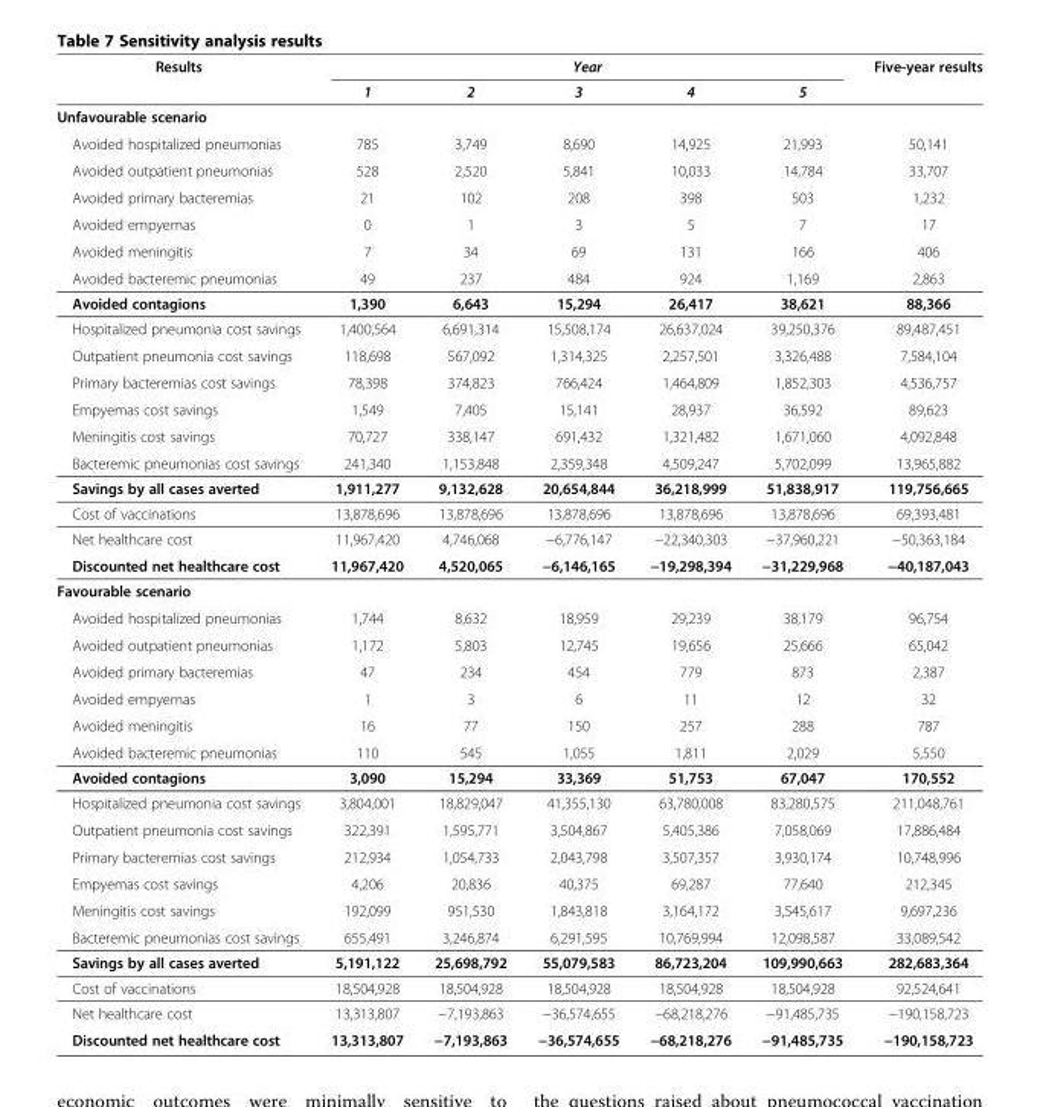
<table><thead><tr><td rowspan="2">Results</td><td colspan="5">Year</td><td rowspan="2">Five-year results</td></tr><tr><td>1</td><td>2</td><td>3</td><td>4</td><td>5</td></tr></thead><tbody><tr><td colspan="7">Unfavourable scenario</td></tr><tr><td>Avoided hospitalized pneumonias</td><td>785</td><td>3,749</td><td>8,690</td><td>14,925</td><td>21,993</td><td>50,141</td></tr><tr><td>Avoided outpatient pneumonias</td><td>528</td><td>2,520</td><td>5,841</td><td>10,033</td><td>14,784</td><td>33,707</td></tr><tr><td>Avoided primary bacteremias</td><td>21</td><td>102</td><td>208</td><td>398</td><td>503</td><td>1,232</td></tr><tr><td>Avoided empyemas</td><td>0</td><td>1</td><td>3</td><td>5</td><td>7</td><td>17</td></tr><tr><td>Avoided meningitis</td><td>7</td><td>34</td><td>69</td><td>131</td><td>166</td><td>406</td></tr><tr><td>Avoided bacteremic pneumonias</td><td>49</td><td>237</td><td>484</td><td>924</td><td>1,169</td><td>2,863</td></tr><tr><td>Avoided contagions</td><td>1,390</td><td>6,643</td><td>15,294</td><td>26,417</td><td>38,621</td><td>88,366</td></tr><tr><td>Hospitalized pneumonia cost savings</td><td>1,400,564</td><td>6,691,314</td><td>15,508,174</td><td>26,637,024</td><td>39,250,376</td><td>89,487,451</td></tr><tr><td>Outpatient pneumonia cost savings</td><td>118,698</td><td>567,092</td><td>1,314,325</td><td>2,257,501</td><td>3,326,488</td><td>7,584,104</td></tr><tr><td>Primary bacteremias cost savings</td><td>78,398</td><td>374,823</td><td>766,424</td><td>1,464,809</td><td>1,852,303</td><td>4,536,757</td></tr><tr><td>Empyemas cost savings</td><td>1,549</td><td>7,405</td><td>15,141</td><td>28,937</td><td>36,592</td><td>89,623</td></tr><tr><td>Meningitis cost savings</td><td>70,727</td><td>338,147</td><td>691,432</td><td>1,321,482</td><td>1,671,060</td><td>4,092,848</td></tr><tr><td>Bacteremic pneumonias cost savings</td><td>241,340</td><td>1,153,848</td><td>2,359,348</td><td>4,509,247</td><td>5,702,099</td><td>13,965,882</td></tr><tr><td>Savings by all cases averted</td><td>1,911,277</td><td>9,132,628</td><td>20,654,844</td><td>36,218,999</td><td>51,838,917</td><td>119,756,665</td></tr><tr><td>Cost of vaccinations</td><td>13,878,696</td><td>13,878,696</td><td>13,878,696</td><td>13,878,696</td><td>13,878,696</td><td>69,393,481</td></tr><tr><td>Net healthcare cost</td><td>11,967,420</td><td>4,746,068</td><td>−6,776,147</td><td>−22,340,303</td><td>−37,960,221</td><td>−50,363,184</td></tr><tr><td>Discounted net healthcare cost</td><td>11,967,420</td><td>4,520,065</td><td>−6,146,165</td><td>−19,298,394</td><td>−31,229,968</td><td>−40,187,043</td></tr><tr><td colspan="7">Favourable scenario</td></tr><tr><td>Avoided hospitalized pneumonias</td><td>1,744</td><td>8,632</td><td>18,959</td><td>29,239</td><td>38,179</td><td>96,754</td></tr><tr><td>Avoided outpatient pneumonias</td><td>1,172</td><td>5,803</td><td>12,745</td><td>19,656</td><td>25,666</td><td>65,042</td></tr><tr><td>Avoided primary bacteremias</td><td>47</td><td>234</td><td>454</td><td>779</td><td>873</td><td>2,387</td></tr><tr><td>Avoided empyemas</td><td>1</td><td>3</td><td>6</td><td>11</td><td>12</td><td>32</td></tr><tr><td>Avoided meningitis</td><td>16</td><td>77</td><td>150</td><td>257</td><td>288</td><td>787</td></tr><tr><td>Avoided bacteremic pneumonias</td><td>110</td><td>545</td><td>1,055</td><td>1,811</td><td>2,029</td><td>5,550</td></tr><tr><td>Avoided contagions</td><td>3,090</td><td>15,294</td><td>33,369</td><td>51,753</td><td>67,047</td><td>170,552</td></tr><tr><td>Hospitalized pneumonia cost savings</td><td>3,804,001</td><td>18,829,047</td><td>41,355,130</td><td>63,780,008</td><td>83,280,575</td><td>211,048,761</td></tr><tr><td>Outpatient pneumonia cost savings</td><td>322,391</td><td>1,595,771</td><td>3,504,867</td><td>5,405,386</td><td>7,058,069</td><td>17,886,484</td></tr><tr><td>Primary bacteremias cost savings</td><td>212,934</td><td>1,054,733</td><td>2,043,798</td><td>3,507,357</td><td>3,930,174</td><td>10,748,996</td></tr><tr><td>Empyemas cost savings</td><td>4,206</td><td>20,836</td><td>40,375</td><td>69,287</td><td>77,640</td><td>212,345</td></tr><tr><td>Meningitis cost savings</td><td>192,099</td><td>951,530</td><td>1,843,818</td><td>3,164,172</td><td>3,545,617</td><td>9,697,236</td></tr><tr><td>Bacteremic pneumonias cost savings</td><td>655,491</td><td>3,246,874</td><td>6,291,595</td><td>10,769,994</td><td>12,098,587</td><td>33,089,542</td></tr><tr><td>Savings by all cases averted</td><td>5,191,122</td><td>25,698,792</td><td>55,079,583</td><td>86,723,204</td><td>109,990,663</td><td>282,683,364</td></tr><tr><td>Cost of vaccinations</td><td>18,504,928</td><td>18,504,928</td><td>18,504,928</td><td>18,504,928</td><td>18,504,928</td><td>92,524,641</td></tr><tr><td>Net healthcare cost</td><td>13,313,807</td><td>−7,193,863</td><td>−36,574,655</td><td>−68,218,276</td><td>−91,485,735</td><td>−190,158,723</td></tr><tr><td>Discounted net healthcare cost</td><td>13,313,807</td><td>−7,193,863</td><td>−36,574,655</td><td>−68,218,276</td><td>−91,485,735</td><td>−190,158,723</td></tr></tbody></table>